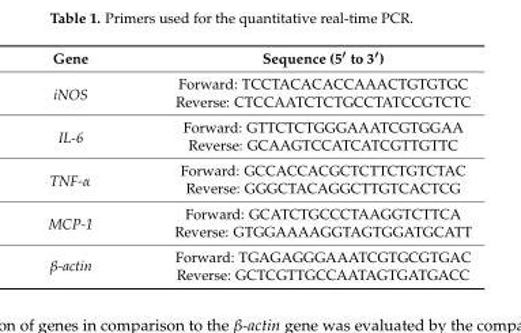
<table><thead><tr><td>Gene</td><td>Sequence (5′ to 3′)</td></tr></thead><tbody><tr><td rowspan="2">iNOS</td><td>Forward: TCCTACACACCAAACTGTGTGC</td></tr><tr><td>Reverse: CTCCAATCTCTGCCTATCCGTCTC</td></tr><tr><td rowspan="2">IL-6</td><td>Forward: GTTCTCTGGGAAATCGTGGAA</td></tr><tr><td>Reverse: GCAAGTCCATCATCGTTGTTC</td></tr><tr><td rowspan="2">TNF-α</td><td>Forward: GCCACCACGCTCTTCTGTCTAC</td></tr><tr><td>Reverse: GGGCTACAGGCTTGTCACTCG</td></tr><tr><td rowspan="2">MCP-1</td><td>Forward: GCATCTGCCCTAAGGTCTTCA</td></tr><tr><td>Reverse: GTGGAAAAGGTAGTGGATGCATT</td></tr><tr><td rowspan="2">β-actin</td><td>Forward: TGAGAGGGAAATCGTGCGTGAC</td></tr><tr><td>Reverse: GCTCGTTGCCAATAGTGATGACC</td></tr></tbody></table>